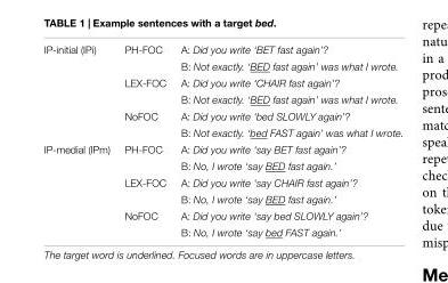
<table><tbody><tr><td rowspan="6">IP-initial (IPi)</td><td>PH-FOC</td><td>A: Did you write ‘BET fast again’?</td></tr><tr><td></td><td>B: Not exactly. ‘BED fast again’ was what I wrote.</td></tr><tr><td>LEX-FOC</td><td>A: Did you write ‘CHAIR fast again’?</td></tr><tr><td></td><td>B: Not exactly. ‘BED fast again’ was what I wrote.</td></tr><tr><td>NoFOC</td><td>A: Did you write ‘bed SLOWLY again’?</td></tr><tr><td></td><td>B: Not exactly. ‘bed FAST again’ was what I wrote.</td></tr><tr><td rowspan="6">IP-medial (IPm)</td><td>PH-FOC</td><td>A: Did you write ‘say BET fast again’?</td></tr><tr><td></td><td>B: No, I wrote ‘say BED fast again.’</td></tr><tr><td>LEX-FOC</td><td>A: Did you write ‘say CHAIR fast again’?</td></tr><tr><td></td><td>B: No, I wrote ‘say BED fast again.’</td></tr><tr><td>NoFOC</td><td>A: Did you write ‘say bed SLOWLY again’?</td></tr><tr><td></td><td>B: No, I wrote ‘say bed FAST again.’</td></tr></tbody></table>